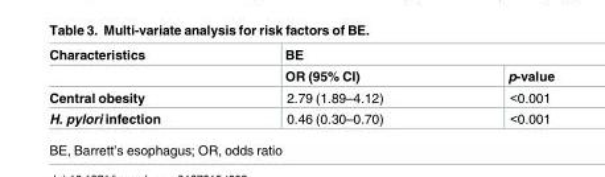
<table><thead><tr><td rowspan="2">Characteristics</td><td colspan="2">BE</td></tr><tr><td>OR (95% CI)</td><td>p-value</td></tr></thead><tbody><tr><td>Central obesity</td><td>2.79 (1.89–4.12)</td><td>&lt;0.001</td></tr><tr><td>H. pylori infection</td><td>0.46 (0.30–0.70)</td><td>&lt;0.001</td></tr></tbody></table>